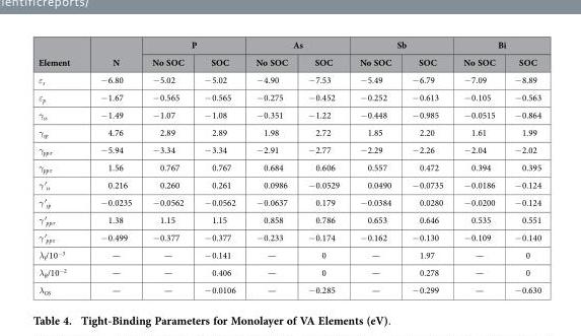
<table><thead><tr><td rowspan="2">Element</td><td rowspan="2">N</td><td colspan="2">P</td><td colspan="2">As</td><td colspan="2">Sb</td><td colspan="2">Bi</td></tr><tr><td>No SOC</td><td>SOC</td><td>No SOC</td><td>SOC</td><td>No SOC</td><td>SOC</td><td>No SOC</td><td>SOC</td></tr></thead><tbody><tr><td>ε<sub>s</sub></td><td>− 6.80</td><td>− 5.02</td><td>− 5.02</td><td>− 4.90</td><td>− 7.53</td><td>− 5.49</td><td>− 6.79</td><td>− 7.09</td><td>− 8.89</td></tr><tr><td>ε<sub>p</sub></td><td>− 1.67</td><td>− 0.565</td><td>− 0.565</td><td>− 0.275</td><td>− 0.452</td><td>− 0.252</td><td>− 0.613</td><td>− 0.105</td><td>− 0.563</td></tr><tr><td>γ<sub>ss</sub></td><td>− 1.49</td><td>− 1.07</td><td>− 1.08</td><td>− 0.351</td><td>− 1.22</td><td>− 0.448</td><td>− 0.985</td><td>− 0.0515</td><td>− 0.864</td></tr><tr><td>γ<sub>sp</sub></td><td>4.76</td><td>2.89</td><td>2.89</td><td>1.98</td><td>2.72</td><td>1.85</td><td>2.20</td><td>1.61</td><td>1.99</td></tr><tr><td>γ<sub>ppσ</sub></td><td>− 5.94</td><td>− 3.34</td><td>− 3.34</td><td>− 2.91</td><td>− 2.77</td><td>− 2.29</td><td>− 2.26</td><td>− 2.04</td><td>− 2.02</td></tr><tr><td>γ<sub>ppπ</sub></td><td>1.56</td><td>0.767</td><td>0.767</td><td>0.684</td><td>0.606</td><td>0.557</td><td>0.472</td><td>0.394</td><td>0.395</td></tr><tr><td>γ′<sub>ss</sub></td><td>0.216</td><td>0.260</td><td>0.261</td><td>0.0986</td><td>− 0.0529</td><td>0.0490</td><td>− 0.0735</td><td>− 0.0186</td><td>− 0.124</td></tr><tr><td>γ′<sub>sp</sub></td><td>− 0.0235</td><td>− 0.0562</td><td>− 0.0562</td><td>− 0.0637</td><td>0.179</td><td>− 0.0384</td><td>0.0280</td><td>− 0.0200</td><td>− 0.124</td></tr><tr><td>γ′<sub>ppσ</sub></td><td>1.38</td><td>1.15</td><td>1.15</td><td>0.858</td><td>0.786</td><td>0.653</td><td>0.646</td><td>0.535</td><td>0.551</td></tr><tr><td>γ′<sub>ppπ</sub></td><td>− 0.499</td><td>− 0.377</td><td>− 0.377</td><td>− 0.233</td><td>− 0.174</td><td>− 0.162</td><td>− 0.130</td><td>− 0.109</td><td>− 0.140</td></tr><tr><td>λ<sub>I</sub>/10<sup>−3</sup></td><td>—</td><td>—</td><td>− 0.141</td><td>—</td><td>0</td><td>—</td><td>1.97</td><td>—</td><td>0</td></tr><tr><td>λ<sub>R</sub>/10<sup>−2</sup></td><td>—</td><td>—</td><td>0.406</td><td>—</td><td>0</td><td>—</td><td>0.278</td><td>—</td><td>0</td></tr><tr><td>λ<sub>OS</sub></td><td>—</td><td>—</td><td>− 0.0106</td><td>—</td><td>− 0.285</td><td>—</td><td>− 0.299</td><td>—</td><td>− 0.630</td></tr></tbody></table>